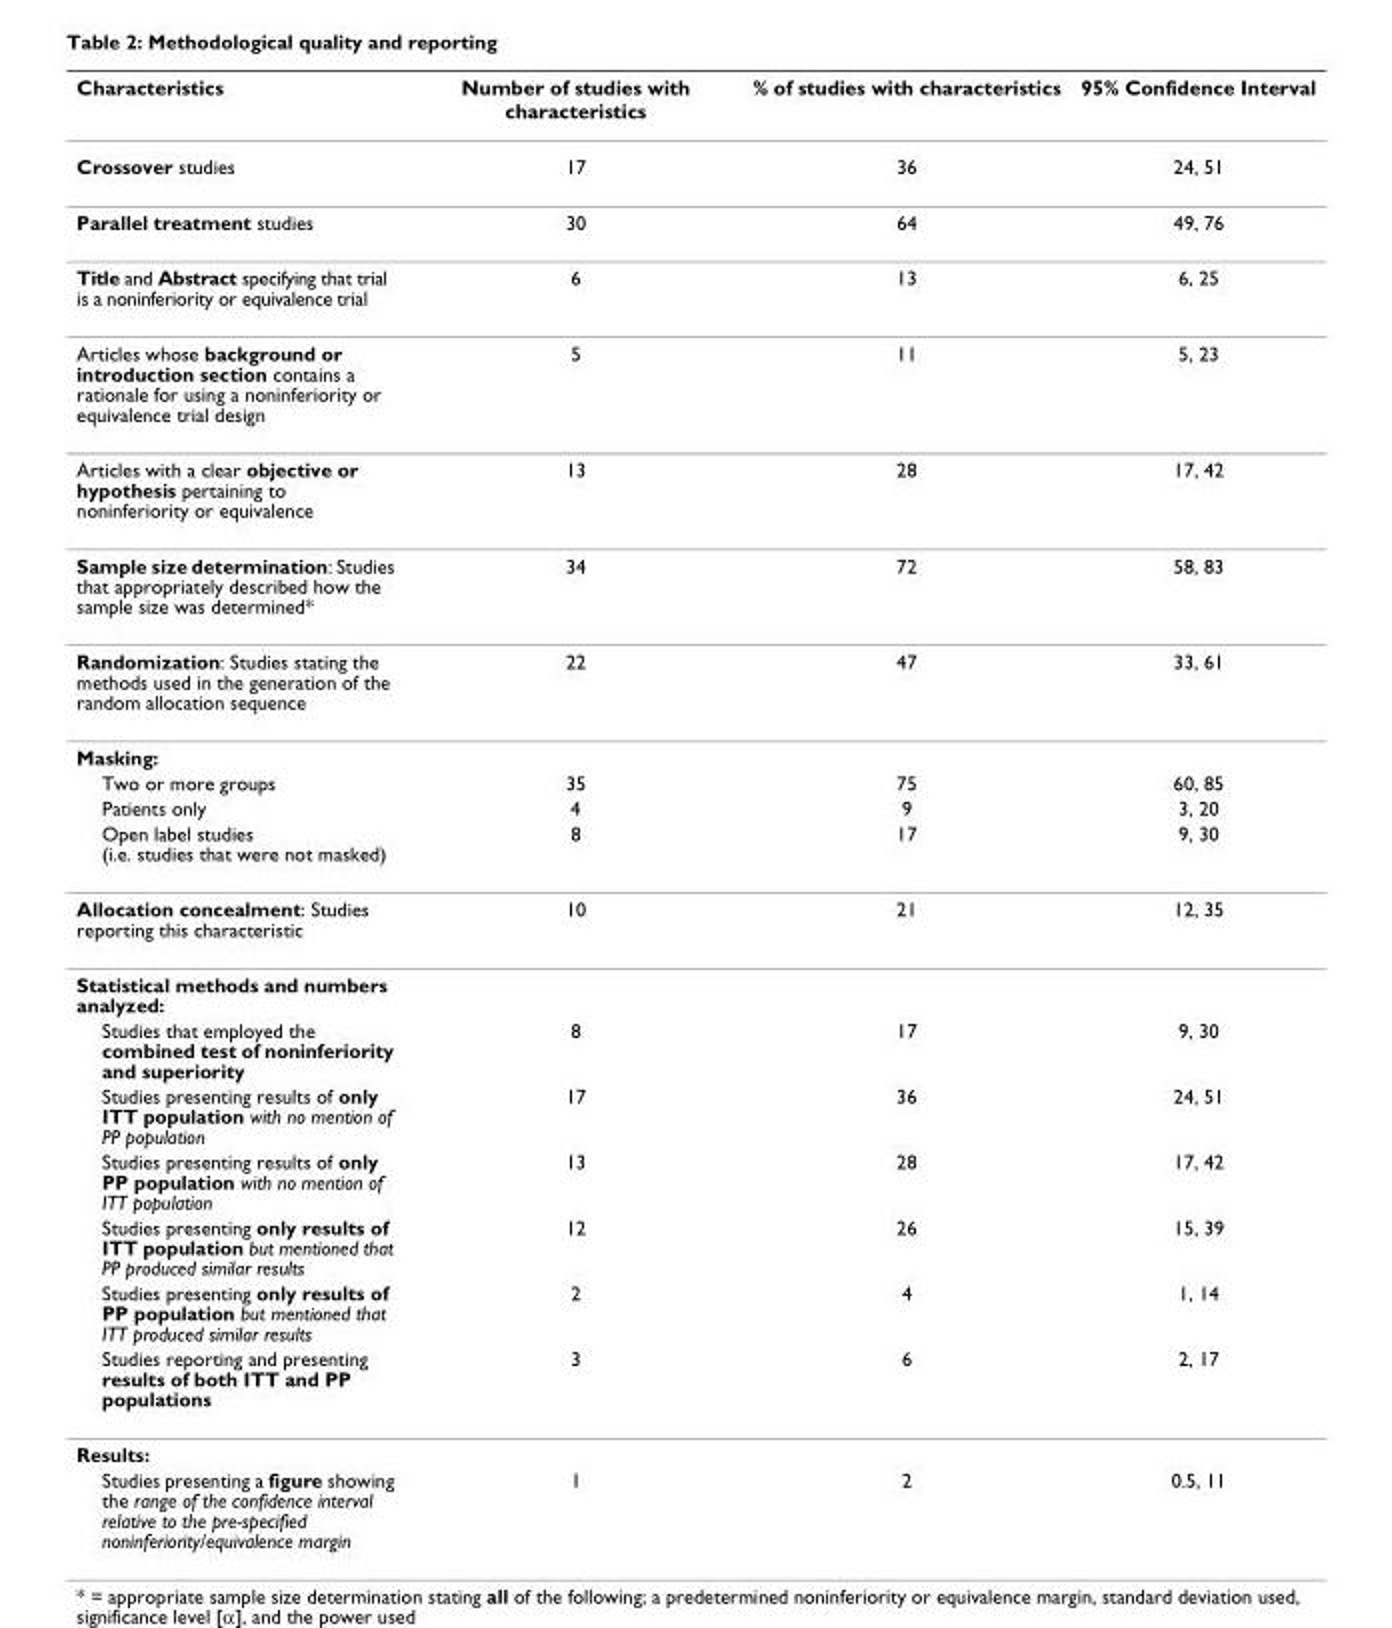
<table><thead><tr><td>Characteristics</td><td>Number of studies with characteristics</td><td>% of studies with characteristics</td><td>95% Confidence Interval</td></tr></thead><tbody><tr><td>Crossover studies</td><td>17</td><td>36</td><td>24, 51</td></tr><tr><td>Parallel treatment studies</td><td>30</td><td>64</td><td>49, 76</td></tr><tr><td>Title and Abstract specifying that trial is a noninferiority or equivalence trial</td><td>6</td><td>13</td><td>6, 25</td></tr><tr><td>Articles whose background or introduction section contains a rationale for using a noninferiority or equivalence trial design</td><td>5</td><td>11</td><td>5, 23</td></tr><tr><td>Articles with a clear objective or hypothesis pertaining to noninferiority or equivalence</td><td>13</td><td>28</td><td>17, 42</td></tr><tr><td>Sample size determination: Studies that appropriately described how the sample size was determined*</td><td>34</td><td>72</td><td>58, 83</td></tr><tr><td>Randomization: Studies stating the methods used in the generation of the random allocation sequence</td><td>22</td><td>47</td><td>33, 61</td></tr><tr><td colspan="4">Masking:</td></tr><tr><td>Two or more groups</td><td>35</td><td>75</td><td>60, 85</td></tr><tr><td>Patients only</td><td>4</td><td>9</td><td>3, 20</td></tr><tr><td>Open label studies (i.e. studies that were not masked)</td><td>8</td><td>17</td><td>9, 30</td></tr><tr><td>Allocation concealment: Studies reporting this characteristic</td><td>10</td><td>21</td><td>12, 35</td></tr><tr><td colspan="4">Statistical methods and numbers analyzed:</td></tr><tr><td>Studies that employed the combined test of noninferiority and superiority</td><td>8</td><td>17</td><td>9, 30</td></tr><tr><td>Studies presenting results of only ITT population with no mention of PP population</td><td>17</td><td>36</td><td>24, 51</td></tr><tr><td>Studies presenting results of only PP population with no mention of ITT population</td><td>13</td><td>28</td><td>17, 42</td></tr><tr><td>Studies presenting only results of ITT population but mentioned that PP produced similar results</td><td>12</td><td>26</td><td>15, 39</td></tr><tr><td>Studies presenting only results of PP population but mentioned that ITT produced similar results</td><td>2</td><td>4</td><td>1, 14</td></tr><tr><td>Studies reporting and presenting results of both ITT and PP populations</td><td>3</td><td>6</td><td>2, 17</td></tr><tr><td colspan="4">Results:</td></tr><tr><td>Studies presenting a figure showing the range of the confidence interval relative to the pre-specified noninferiority/equivalence margin</td><td>1</td><td>2</td><td>0.5, 11</td></tr></tbody></table>